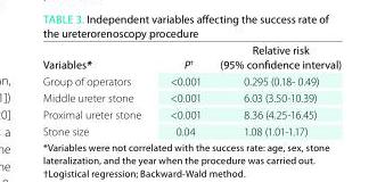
<table><thead><tr><td>Variables*</td><td>P<sup>†</sup></td><td>Relative risk (95% confidence interval)</td></tr></thead><tbody><tr><td>Group of operators</td><td>&lt;0.001</td><td>0.295 (0.18- 0.49)</td></tr><tr><td>Middle ureter stone</td><td>&lt;0.001</td><td>6.03 (3.50-10.39)</td></tr><tr><td>Proximal ureter stone</td><td>&lt;0.001</td><td>8.36 (4.25-16.45)</td></tr><tr><td>Stone size</td><td>0.04</td><td>1.08 (1.01-1.17)</td></tr></tbody></table>